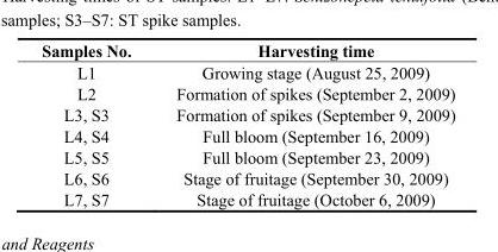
<table><thead><tr><td>Samples No.</td><td>Harvesting time</td></tr></thead><tbody><tr><td>L1</td><td>Growing stage (August 25, 2009)</td></tr><tr><td>L2</td><td>Formation of spikes (September 2, 2009)</td></tr><tr><td>L3, S3</td><td>Formation of spikes (September 9, 2009)</td></tr><tr><td>L4, S4</td><td>Full bloom (September 16, 2009)</td></tr><tr><td>L5, S5</td><td>Full bloom (September 23, 2009)</td></tr><tr><td>L6, S6</td><td>Stage of fruitage (September 30, 2009)</td></tr><tr><td>L7, S7</td><td>Stage of fruitage (October 6, 2009)</td></tr></tbody></table>